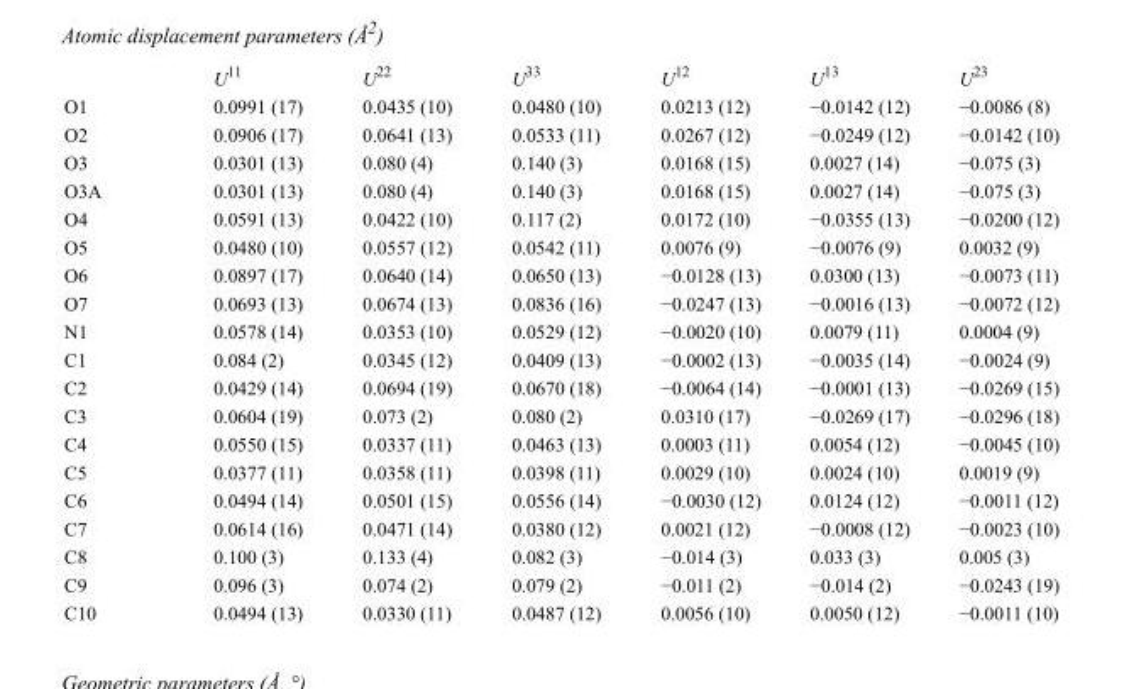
<table><thead><tr><td></td><td>U<sup>11</sup></td><td>U<sup>22</sup></td><td>U<sup>33</sup></td><td>U<sup>12</sup></td><td>U<sup>13</sup></td><td>U<sup>23</sup></td></tr></thead><tbody><tr><td>O1</td><td>0.0991 (17)</td><td>0.0435 (10)</td><td>0.0480 (10)</td><td>0.0213 (12)</td><td>−0.0142 (12)</td><td>−0.0086 (8)</td></tr><tr><td>O2</td><td>0.0906 (17)</td><td>0.0641 (13)</td><td>0.0533 (11)</td><td>0.0267 (12)</td><td>−0.0249 (12)</td><td>−0.0142 (10)</td></tr><tr><td>O3</td><td>0.0301 (13)</td><td>0.080 (4)</td><td>0.140 (3)</td><td>0.0168 (15)</td><td>0.0027 (14)</td><td>−0.075 (3)</td></tr><tr><td>O3A</td><td>0.0301 (13)</td><td>0.080 (4)</td><td>0.140 (3)</td><td>0.0168 (15)</td><td>0.0027 (14)</td><td>−0.075 (3)</td></tr><tr><td>O4</td><td>0.0591 (13)</td><td>0.0422 (10)</td><td>0.117 (2)</td><td>0.0172 (10)</td><td>−0.0355 (13)</td><td>−0.0200 (12)</td></tr><tr><td>O5</td><td>0.0480 (10)</td><td>0.0557 (12)</td><td>0.0542 (11)</td><td>0.0076 (9)</td><td>−0.0076 (9)</td><td>0.0032 (9)</td></tr><tr><td>O6</td><td>0.0897 (17)</td><td>0.0640 (14)</td><td>0.0650 (13)</td><td>−0.0128 (13)</td><td>0.0300 (13)</td><td>−0.0073 (11)</td></tr><tr><td>O7</td><td>0.0693 (13)</td><td>0.0674 (13)</td><td>0.0836 (16)</td><td>−0.0247 (13)</td><td>−0.0016 (13)</td><td>−0.0072 (12)</td></tr><tr><td>N1</td><td>0.0578 (14)</td><td>0.0353 (10)</td><td>0.0529 (12)</td><td>−0.0020 (10)</td><td>0.0079 (11)</td><td>0.0004 (9)</td></tr><tr><td>C1</td><td>0.084 (2)</td><td>0.0345 (12)</td><td>0.0409 (13)</td><td>−0.0002 (13)</td><td>−0.0035 (14)</td><td>−0.0024 (9)</td></tr><tr><td>C2</td><td>0.0429 (14)</td><td>0.0694 (19)</td><td>0.0670 (18)</td><td>−0.0064 (14)</td><td>−0.0001 (13)</td><td>−0.0269 (15)</td></tr><tr><td>C3</td><td>0.0604 (19)</td><td>0.073 (2)</td><td>0.080 (2)</td><td>0.0310 (17)</td><td>−0.0269 (17)</td><td>−0.0296 (18)</td></tr><tr><td>C4</td><td>0.0550 (15)</td><td>0.0337 (11)</td><td>0.0463 (13)</td><td>0.0003 (11)</td><td>0.0054 (12)</td><td>−0.0045 (10)</td></tr><tr><td>C5</td><td>0.0377 (11)</td><td>0.0358 (11)</td><td>0.0398 (11)</td><td>0.0029 (10)</td><td>0.0024 (10)</td><td>0.0019 (9)</td></tr><tr><td>C6</td><td>0.0494 (14)</td><td>0.0501 (15)</td><td>0.0556 (14)</td><td>−0.0030 (12)</td><td>0.0124 (12)</td><td>−0.0011 (12)</td></tr><tr><td>C7</td><td>0.0614 (16)</td><td>0.0471 (14)</td><td>0.0380 (12)</td><td>0.0021 (12)</td><td>−0.0008 (12)</td><td>−0.0023 (10)</td></tr><tr><td>C8</td><td>0.100 (3)</td><td>0.133 (4)</td><td>0.082 (3)</td><td>−0.014 (3)</td><td>0.033 (3)</td><td>0.005 (3)</td></tr><tr><td>C9</td><td>0.096 (3)</td><td>0.074 (2)</td><td>0.079 (2)</td><td>−0.011 (2)</td><td>−0.014 (2)</td><td>−0.0243 (19)</td></tr><tr><td>C10</td><td>0.0494 (13)</td><td>0.0330 (11)</td><td>0.0487 (12)</td><td>0.0056 (10)</td><td>0.0050 (12)</td><td>−0.0011 (10)</td></tr></tbody></table>